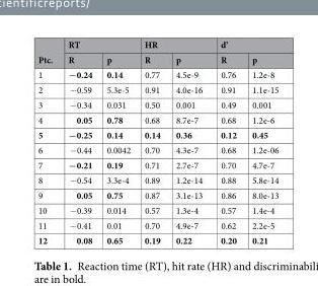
<table><thead><tr><td rowspan="2">Ptc.</td><td colspan="2">RT</td><td colspan="2">HR</td><td colspan="2">d’</td></tr><tr><td>R</td><td>p</td><td>R</td><td>p</td><td>R</td><td>p</td></tr></thead><tbody><tr><td>1</td><td>−0.24</td><td>0.14</td><td>0.77</td><td>4.5e-9</td><td>0.76</td><td>1.2e-8</td></tr><tr><td>2</td><td>−0.59</td><td>5.3e-5</td><td>0.91</td><td>4.0e-16</td><td>0.91</td><td>1.1e-15</td></tr><tr><td>3</td><td>−0.34</td><td>0.031</td><td>0.50</td><td>0.001</td><td>0.49</td><td>0.001</td></tr><tr><td>4</td><td>0.05</td><td>0.78</td><td>0.68</td><td>8.7e-7</td><td>0.68</td><td>1.2e-6</td></tr><tr><td>5</td><td>−0.25</td><td>0.14</td><td>0.14</td><td>0.36</td><td>0.12</td><td>0.45</td></tr><tr><td>6</td><td>−0.44</td><td>0.0042</td><td>0.70</td><td>4.3e-7</td><td>0.68</td><td>1.2e-06</td></tr><tr><td>7</td><td>−0.21</td><td>0.19</td><td>0.71</td><td>2.7e-7</td><td>0.70</td><td>4.7e-7</td></tr><tr><td>8</td><td>−0.54</td><td>3.3e-4</td><td>0.89</td><td>1.2e-14</td><td>0.88</td><td>5.8e-14</td></tr><tr><td>9</td><td>0.05</td><td>0.75</td><td>0.87</td><td>3.1e-13</td><td>0.86</td><td>8.0e-13</td></tr><tr><td>10</td><td>−0.39</td><td>0.014</td><td>0.57</td><td>1.3e-4</td><td>0.57</td><td>1.4e-4</td></tr><tr><td>11</td><td>−0.41</td><td>0.01</td><td>0.70</td><td>4.9e-7</td><td>0.62</td><td>2.2e-5</td></tr><tr><td>12</td><td>0.08</td><td>0.65</td><td>0.19</td><td>0.22</td><td>0.20</td><td>0.21</td></tr></tbody></table>